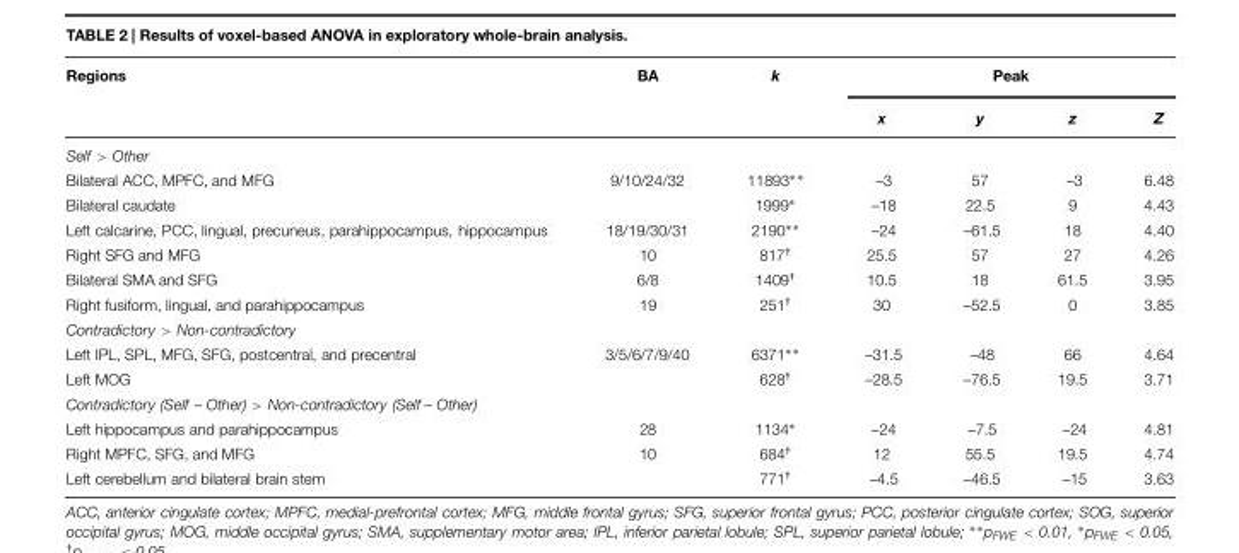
<table><thead><tr><td rowspan="2">Regions</td><td rowspan="2">BA</td><td rowspan="2">k</td><td colspan="4">Peak</td></tr><tr><td>x</td><td>y</td><td>z</td><td>Z</td></tr></thead><tbody><tr><td colspan="7">Self &gt; Other</td></tr><tr><td>Bilateral ACC, MPFC, and MFG</td><td>9/10/24/32</td><td>11893∗ ∗</td><td>–3</td><td>57</td><td>–3</td><td>6.48</td></tr><tr><td>Bilateral caudate</td><td></td><td>1999∗</td><td>–18</td><td>22.5</td><td>9</td><td>4.43</td></tr><tr><td>Left calcarine, PCC, lingual, precuneus, parahippocampus, hippocampus</td><td>18/19/30/31</td><td>2190∗∗</td><td>–24</td><td>–61.5</td><td>18</td><td>4.40</td></tr><tr><td>Right SFG and MFG</td><td>10</td><td>817<sup>†</sup></td><td>25.5</td><td>57</td><td>27</td><td>4.26</td></tr><tr><td>Bilateral SMA and SFG</td><td>6/8</td><td>1409<sup>†</sup></td><td>10.5</td><td>18</td><td>61.5</td><td>3.95</td></tr><tr><td>Right fusiform, lingual, and parahippocampus</td><td>19</td><td>251<sup>†</sup></td><td>30</td><td>–52.5</td><td>0</td><td>3.85</td></tr><tr><td colspan="7">Contradictory &gt; Non-contradictory</td></tr><tr><td>Left IPL, SPL, MFG, SFG, postcentral, and precentral</td><td>3/5/6/7/9/40</td><td>6371∗∗</td><td>–31.5</td><td>–48</td><td>66</td><td>4.64</td></tr><tr><td>Left MOG</td><td></td><td>628<sup>†</sup></td><td>–28.5</td><td>–76.5</td><td>19.5</td><td>3.71</td></tr><tr><td colspan="7">Contradictory (Self – Other) &gt; Non-contradictory (Self – Other)</td></tr><tr><td>Left hippocampus and parahippocampus</td><td>28</td><td>1134∗</td><td>–24</td><td>–7.5</td><td>–24</td><td>4.81</td></tr><tr><td>Right MPFC, SFG, and MFG</td><td>10</td><td>684<sup>†</sup></td><td>12</td><td>55.5</td><td>19.5</td><td>4.74</td></tr><tr><td>Left cerebellum and bilateral brain stem</td><td></td><td>771<sup>†</sup></td><td>–4.5</td><td>–46.5</td><td>–15</td><td>3.63</td></tr></tbody></table>